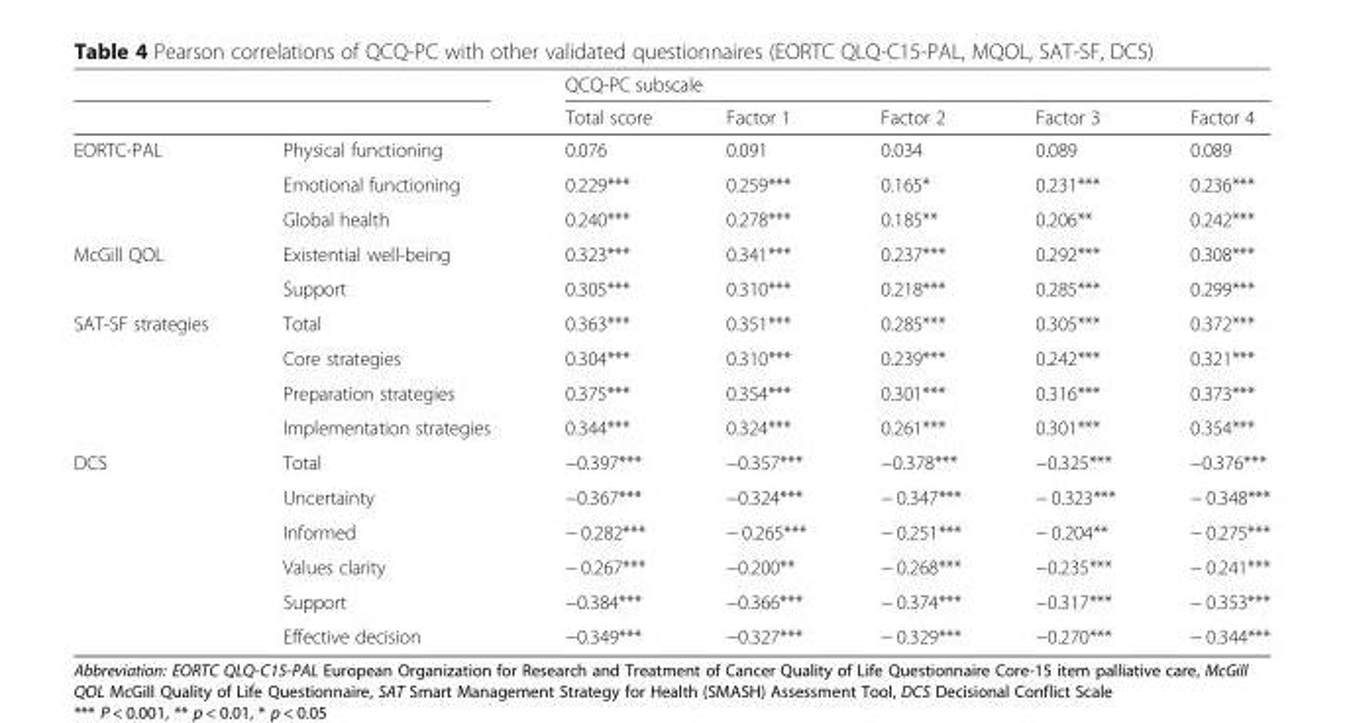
<table><thead><tr><td rowspan="2"></td><td rowspan="2"></td><td colspan="5">QCQ-PC subscale</td></tr><tr><td>Total score</td><td>Factor 1</td><td>Factor 2</td><td>Factor 3</td><td>Factor 4</td></tr></thead><tbody><tr><td rowspan="3">EORTC-PAL</td><td>Physical functioning</td><td>0.076</td><td>0.091</td><td>0.034</td><td>0.089</td><td>0.089</td></tr><tr><td>Emotional functioning</td><td>0.229***</td><td>0.259***</td><td>0.165*</td><td>0.231***</td><td>0.236***</td></tr><tr><td>Global health</td><td>0.240***</td><td>0.278***</td><td>0.185**</td><td>0.206**</td><td>0.242***</td></tr><tr><td rowspan="2">McGill QOL</td><td>Existential well-being</td><td>0.323***</td><td>0.341***</td><td>0.237***</td><td>0.292***</td><td>0.308***</td></tr><tr><td>Support</td><td>0.305***</td><td>0.310***</td><td>0.218***</td><td>0.285***</td><td>0.299***</td></tr><tr><td rowspan="4">SAT-SF strategies</td><td>Total</td><td>0.363***</td><td>0.351***</td><td>0.285***</td><td>0.305***</td><td>0.372***</td></tr><tr><td>Core strategies</td><td>0.304***</td><td>0.310***</td><td>0.239***</td><td>0.242***</td><td>0.321***</td></tr><tr><td>Preparation strategies</td><td>0.375***</td><td>0.354***</td><td>0.301***</td><td>0.316***</td><td>0.373***</td></tr><tr><td>Implementation strategies</td><td>0.344***</td><td>0.324***</td><td>0.261***</td><td>0.301***</td><td>0.354***</td></tr><tr><td rowspan="6">DCS</td><td>Total</td><td>−0.397***</td><td>−0.357***</td><td>−0.378***</td><td>−0.325***</td><td>−0.376***</td></tr><tr><td>Uncertainty</td><td>−0.367***</td><td>−0.324***</td><td>− 0.347***</td><td>− 0.323***</td><td>− 0.348***</td></tr><tr><td>Informed</td><td>− 0.282***</td><td>− 0.265***</td><td>− 0.251***</td><td>− 0.204**</td><td>− 0.275***</td></tr><tr><td>Values clarity</td><td>− 0.267***</td><td>−0.200**</td><td>− 0.268***</td><td>−0.235***</td><td>− 0.241***</td></tr><tr><td>Support</td><td>−0.384***</td><td>−0.366***</td><td>− 0.374***</td><td>−0.317***</td><td>− 0.353***</td></tr><tr><td>Effective decision</td><td>−0.349***</td><td>−0.327***</td><td>− 0.329***</td><td>−0.270***</td><td>− 0.344***</td></tr></tbody></table>